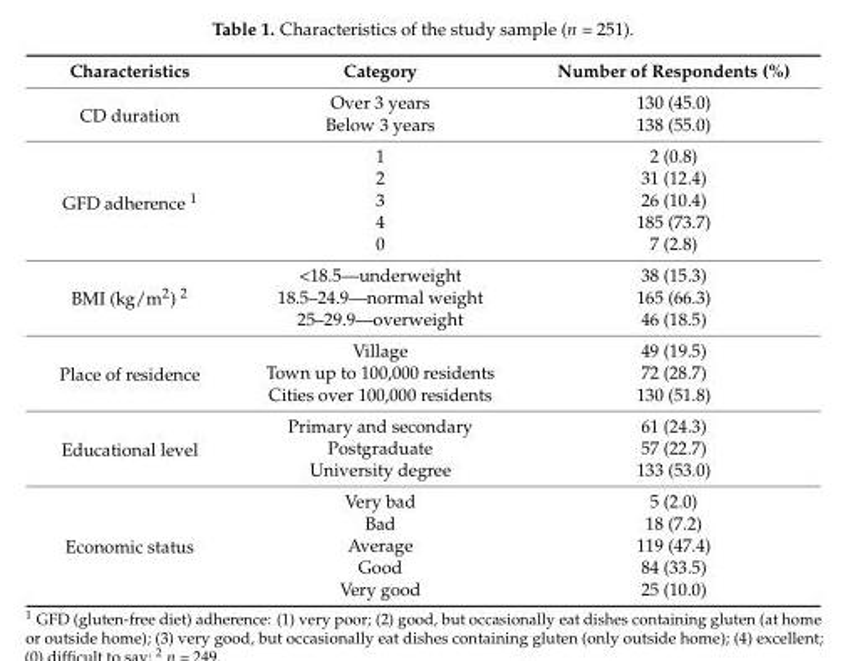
<table><thead><tr><td>Characteristics</td><td>Category</td><td>Number of Respondents (%)</td></tr></thead><tbody><tr><td rowspan="2">CD duration</td><td>Over 3 years</td><td>130 (45.0)</td></tr><tr><td>Below 3 years</td><td>138 (55.0)</td></tr><tr><td rowspan="5">GFD adherence <sup>1</sup></td><td>1</td><td>2 (0.8)</td></tr><tr><td>2</td><td>31 (12.4)</td></tr><tr><td>3</td><td>26 (10.4)</td></tr><tr><td>4</td><td>185 (73.7)</td></tr><tr><td>0</td><td>7 (2.8)</td></tr><tr><td rowspan="3">BMI (kg/m<sup>2</sup>) <sup>2</sup></td><td>&lt;18.5—underweight</td><td>38 (15.3)</td></tr><tr><td>18.5–24.9—normal weight</td><td>165 (66.3)</td></tr><tr><td>25–29.9—overweight</td><td>46 (18.5)</td></tr><tr><td rowspan="3">Place of residence</td><td>Village</td><td>49 (19.5)</td></tr><tr><td>Town up to 100,000 residents</td><td>72 (28.7)</td></tr><tr><td>Cities over 100,000 residents</td><td>130 (51.8)</td></tr><tr><td rowspan="3">Educational level</td><td>Primary and secondary</td><td>61 (24.3)</td></tr><tr><td>Postgraduate</td><td>57 (22.7)</td></tr><tr><td>University degree</td><td>133 (53.0)</td></tr><tr><td rowspan="5">Economic status</td><td>Very bad</td><td>5 (2.0)</td></tr><tr><td>Bad</td><td>18 (7.2)</td></tr><tr><td>Average</td><td>119 (47.4)</td></tr><tr><td>Good</td><td>84 (33.5)</td></tr><tr><td>Very good</td><td>25 (10.0)</td></tr></tbody></table>